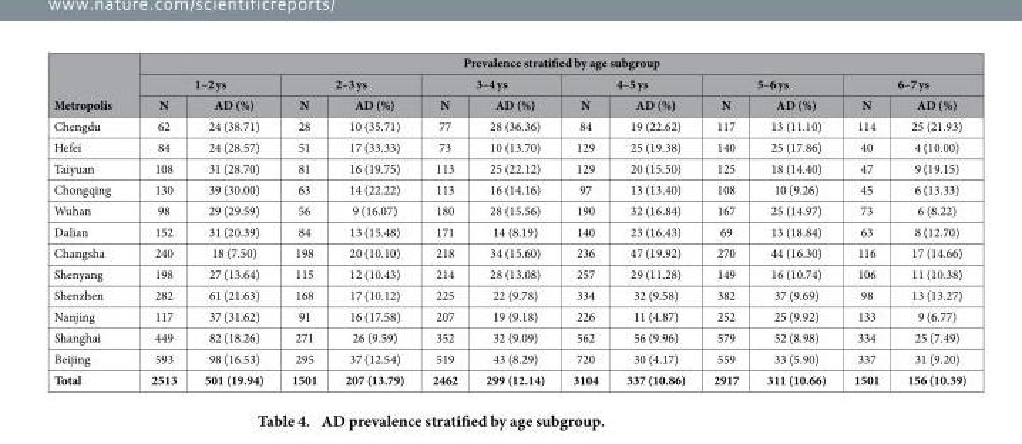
<table><thead><tr><td rowspan="3">Metropolis</td><td colspan="12">Prevalence stratified by age subgroup</td></tr><tr><td colspan="2">1–2 ys</td><td colspan="2">2–3 ys</td><td colspan="2">3–4 ys</td><td colspan="2">4–5 ys</td><td colspan="2">5–6 ys</td><td colspan="2">6–7 ys</td></tr><tr><td>N</td><td>AD (%)</td><td>N</td><td>AD (%)</td><td>N</td><td>AD (%)</td><td>N</td><td>AD (%)</td><td>N</td><td>AD (%)</td><td>N</td><td>AD (%)</td></tr></thead><tbody><tr><td>Chengdu</td><td>62</td><td>24 (38.71)</td><td>28</td><td>10 (35.71)</td><td>77</td><td>28 (36.36)</td><td>84</td><td>19 (22.62)</td><td>117</td><td>13 (11.10)</td><td>114</td><td>25 (21.93)</td></tr><tr><td>Hefei</td><td>84</td><td>24 (28.57)</td><td>51</td><td>17 (33.33)</td><td>73</td><td>10 (13.70)</td><td>129</td><td>25 (19.38)</td><td>140</td><td>25 (17.86)</td><td>40</td><td>4 (10.00)</td></tr><tr><td>Taiyuan</td><td>108</td><td>31 (28.70)</td><td>81</td><td>16 (19.75)</td><td>113</td><td>25 (22.12)</td><td>129</td><td>20 (15.50)</td><td>125</td><td>18 (14.40)</td><td>47</td><td>9 (19.15)</td></tr><tr><td>Chongqing</td><td>130</td><td>39 (30.00)</td><td>63</td><td>14 (22.22)</td><td>113</td><td>16 (14.16)</td><td>97</td><td>13 (13.40)</td><td>108</td><td>10 (9.26)</td><td>45</td><td>6 (13.33)</td></tr><tr><td>Wuhan</td><td>98</td><td>29 (29.59)</td><td>56</td><td>9 (16.07)</td><td>180</td><td>28 (15.56)</td><td>190</td><td>32 (16.84)</td><td>167</td><td>25 (14.97)</td><td>73</td><td>6 (8.22)</td></tr><tr><td>Dalian</td><td>152</td><td>31 (20.39)</td><td>84</td><td>13 (15.48)</td><td>171</td><td>14 (8.19)</td><td>140</td><td>23 (16.43)</td><td>69</td><td>13 (18.84)</td><td>63</td><td>8 (12.70)</td></tr><tr><td>Changsha</td><td>240</td><td>18 (7.50)</td><td>198</td><td>20 (10.10)</td><td>218</td><td>34 (15.60)</td><td>236</td><td>47 (19.92)</td><td>270</td><td>44 (16.30)</td><td>116</td><td>17 (14.66)</td></tr><tr><td>Shenyang</td><td>198</td><td>27 (13.64)</td><td>115</td><td>12 (10.43)</td><td>214</td><td>28 (13.08)</td><td>257</td><td>29 (11.28)</td><td>149</td><td>16 (10.74)</td><td>106</td><td>11 (10.38)</td></tr><tr><td>Shenzhen</td><td>282</td><td>61 (21.63)</td><td>168</td><td>17 (10.12)</td><td>225</td><td>22 (9.78)</td><td>334</td><td>32 (9.58)</td><td>382</td><td>37 (9.69)</td><td>98</td><td>13 (13.27)</td></tr><tr><td>Nanjing</td><td>117</td><td>37 (31.62)</td><td>91</td><td>16 (17.58)</td><td>207</td><td>19 (9.18)</td><td>226</td><td>11 (4.87)</td><td>252</td><td>25 (9.92)</td><td>133</td><td>9 (6.77)</td></tr><tr><td>Shanghai</td><td>449</td><td>82 (18.26)</td><td>271</td><td>26 (9.59)</td><td>352</td><td>32 (9.09)</td><td>562</td><td>56 (9.96)</td><td>579</td><td>52 (8.98)</td><td>334</td><td>25 (7.49)</td></tr><tr><td>Beijing</td><td>593</td><td>98 (16.53)</td><td>295</td><td>37 (12.54)</td><td>519</td><td>43 (8.29)</td><td>720</td><td>30 (4.17)</td><td>559</td><td>33 (5.90)</td><td>337</td><td>31 (9.20)</td></tr><tr><td>Total</td><td>2513</td><td>501 (19.94)</td><td>1501</td><td>207 (13.79)</td><td>2462</td><td>299 (12.14)</td><td>3104</td><td>337 (10.86)</td><td>2917</td><td>311 (10.66)</td><td>1501</td><td>156 (10.39)</td></tr></tbody></table>